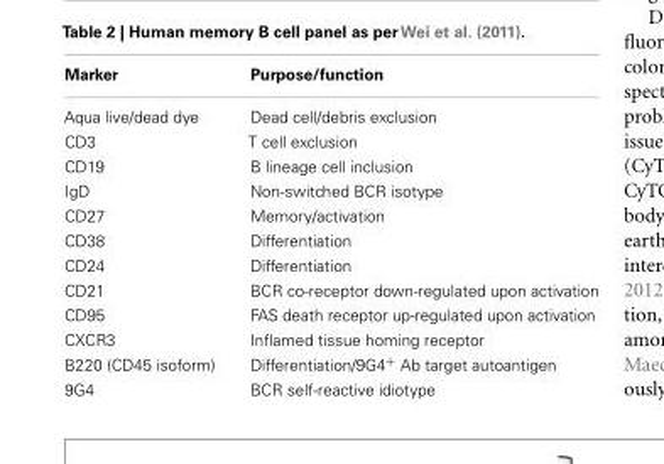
<table><thead><tr><td>Marker</td><td>Purpose/function</td></tr></thead><tbody><tr><td>Aqua live/dead dye</td><td>Dead cell/debris exclusion</td></tr><tr><td>CD3</td><td>T cell exclusion</td></tr><tr><td>CD19</td><td>B lineage cell inclusion</td></tr><tr><td>IgD</td><td>Non-switched BCR isotype</td></tr><tr><td>CD27</td><td>Memory/activation</td></tr><tr><td>CD38</td><td>Differentiation</td></tr><tr><td>CD24</td><td>Differentiation</td></tr><tr><td>CD21</td><td>BCR co-receptor down-regulated upon activation</td></tr><tr><td>CD95</td><td>FAS death receptor up-regulated upon activation</td></tr><tr><td>CXCR3</td><td>Inflamed tissue homing receptor</td></tr><tr><td>B220 (CD45 isoform)</td><td>Differentiation/9G4<sup>+</sup> Ab target autoantigen</td></tr><tr><td>9G4</td><td>BCR self-reactive idiotype</td></tr></tbody></table>